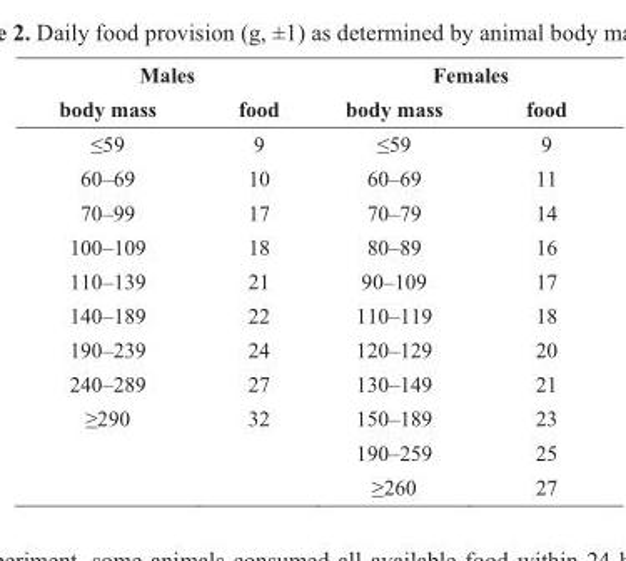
<table><thead><tr><td colspan="2">Males</td><td colspan="2">Females</td></tr><tr><td>body mass</td><td>food</td><td>body mass</td><td>food</td></tr></thead><tbody><tr><td>≤59</td><td>9</td><td>≤59</td><td>9</td></tr><tr><td>60–69</td><td>10</td><td>60–69</td><td>11</td></tr><tr><td>70–99</td><td>17</td><td>70–79</td><td>14</td></tr><tr><td>100–109</td><td>18</td><td>80–89</td><td>16</td></tr><tr><td>110–139</td><td>21</td><td>90–109</td><td>17</td></tr><tr><td>140–189</td><td>22</td><td>110–119</td><td>18</td></tr><tr><td>190–239</td><td>24</td><td>120–129</td><td>20</td></tr><tr><td>240–289</td><td>27</td><td>130–149</td><td>21</td></tr><tr><td rowspan="3">≥290</td><td>32</td><td>150–189</td><td>23</td></tr><tr><td></td><td>190–259</td><td>25</td></tr><tr><td></td><td>≥260</td><td>27</td></tr></tbody></table>